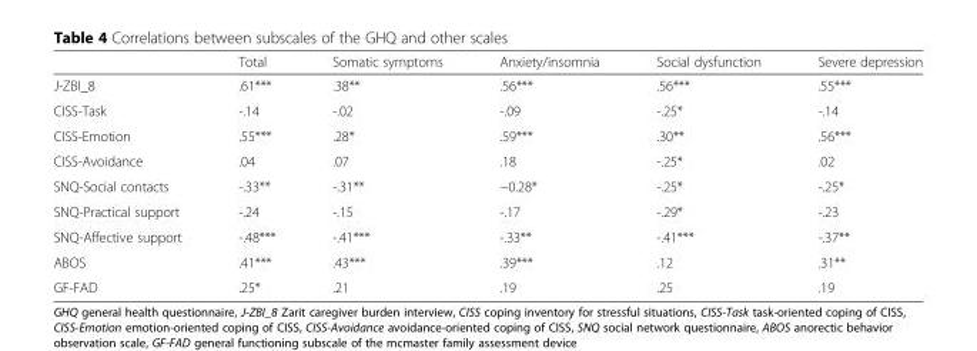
<table><thead><tr><td></td><td>Total</td><td>Somatic symptoms</td><td>Anxiety/insomnia</td><td>Social dysfunction</td><td>Severe depression</td></tr></thead><tbody><tr><td>J-ZBI_8</td><td>.61***</td><td>.38**</td><td>.56***</td><td>.56***</td><td>.55***</td></tr><tr><td>CISS-Task</td><td>-.14</td><td>-.02</td><td>-.09</td><td>-.25*</td><td>-.14</td></tr><tr><td>CISS-Emotion</td><td>.55***</td><td>.28*</td><td>.59***</td><td>.30**</td><td>.56***</td></tr><tr><td>CISS-Avoidance</td><td>.04</td><td>.07</td><td>.18</td><td>-.25*</td><td>.02</td></tr><tr><td>SNQ-Social contacts</td><td>-.33**</td><td>-.31**</td><td>−0.28*</td><td>-.25*</td><td>-.25*</td></tr><tr><td>SNQ-Practical support</td><td>-.24</td><td>-.15</td><td>-.17</td><td>-.29*</td><td>-.23</td></tr><tr><td>SNQ-Affective support</td><td>-.48***</td><td>-.41***</td><td>-.33**</td><td>-.41***</td><td>-.37**</td></tr><tr><td>ABOS</td><td>.41***</td><td>.43***</td><td>.39***</td><td>.12</td><td>.31**</td></tr><tr><td>GF-FAD</td><td>.25*</td><td>.21</td><td>.19</td><td>.25</td><td>.19</td></tr></tbody></table>